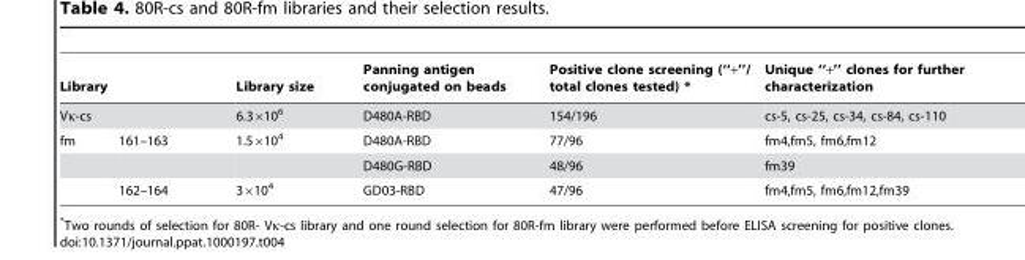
<table><thead><tr><td rowspan="2" colspan="2">Library Vκ-cs</td><td rowspan="3">Library size 6.3×10<sup>6</sup> 1.5×10<sup>4</sup></td><td rowspan="3">Panning antigen conjugated on beads D480A-RBD D480A-RBD</td><td rowspan="3">Positive clone screening (‘‘+’’/ total clones tested) * 154/196 77/96</td><td rowspan="3">Unique ‘‘+’’ clones for further characterization cs-5, cs-25, cs-34, cs-84, cs-110 fm4,fm5, fm6,fm12</td></tr><tr></tr><tr><td>fm</td><td>161–163</td></tr></thead><tbody><tr><td></td><td></td><td></td><td>D480G-RBD</td><td>48/96</td><td>fm39</td></tr><tr><td></td><td>162–164</td><td>3×10<sup>4</sup></td><td>GD03-RBD</td><td>47/96</td><td>fm4,fm5, fm6,fm12,fm39</td></tr></tbody></table>